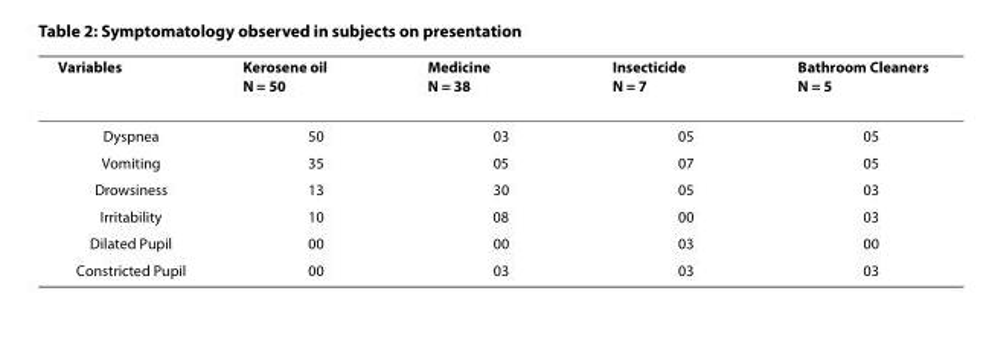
<table><thead><tr><td>Variables</td><td>Kerosene oil N = 50</td><td>Medicine N = 38</td><td>Insecticide N = 7</td><td>Bathroom Cleaners N = 5</td></tr></thead><tbody><tr><td>Dyspnea</td><td>50</td><td>03</td><td>05</td><td>05</td></tr><tr><td>Vomiting</td><td>35</td><td>05</td><td>07</td><td>05</td></tr><tr><td>Drowsiness</td><td>13</td><td>30</td><td>05</td><td>03</td></tr><tr><td>Irritability</td><td>10</td><td>08</td><td>00</td><td>03</td></tr><tr><td>Dilated Pupil</td><td>00</td><td>00</td><td>03</td><td>00</td></tr><tr><td>Constricted Pupil</td><td>00</td><td>03</td><td>03</td><td>03</td></tr></tbody></table>